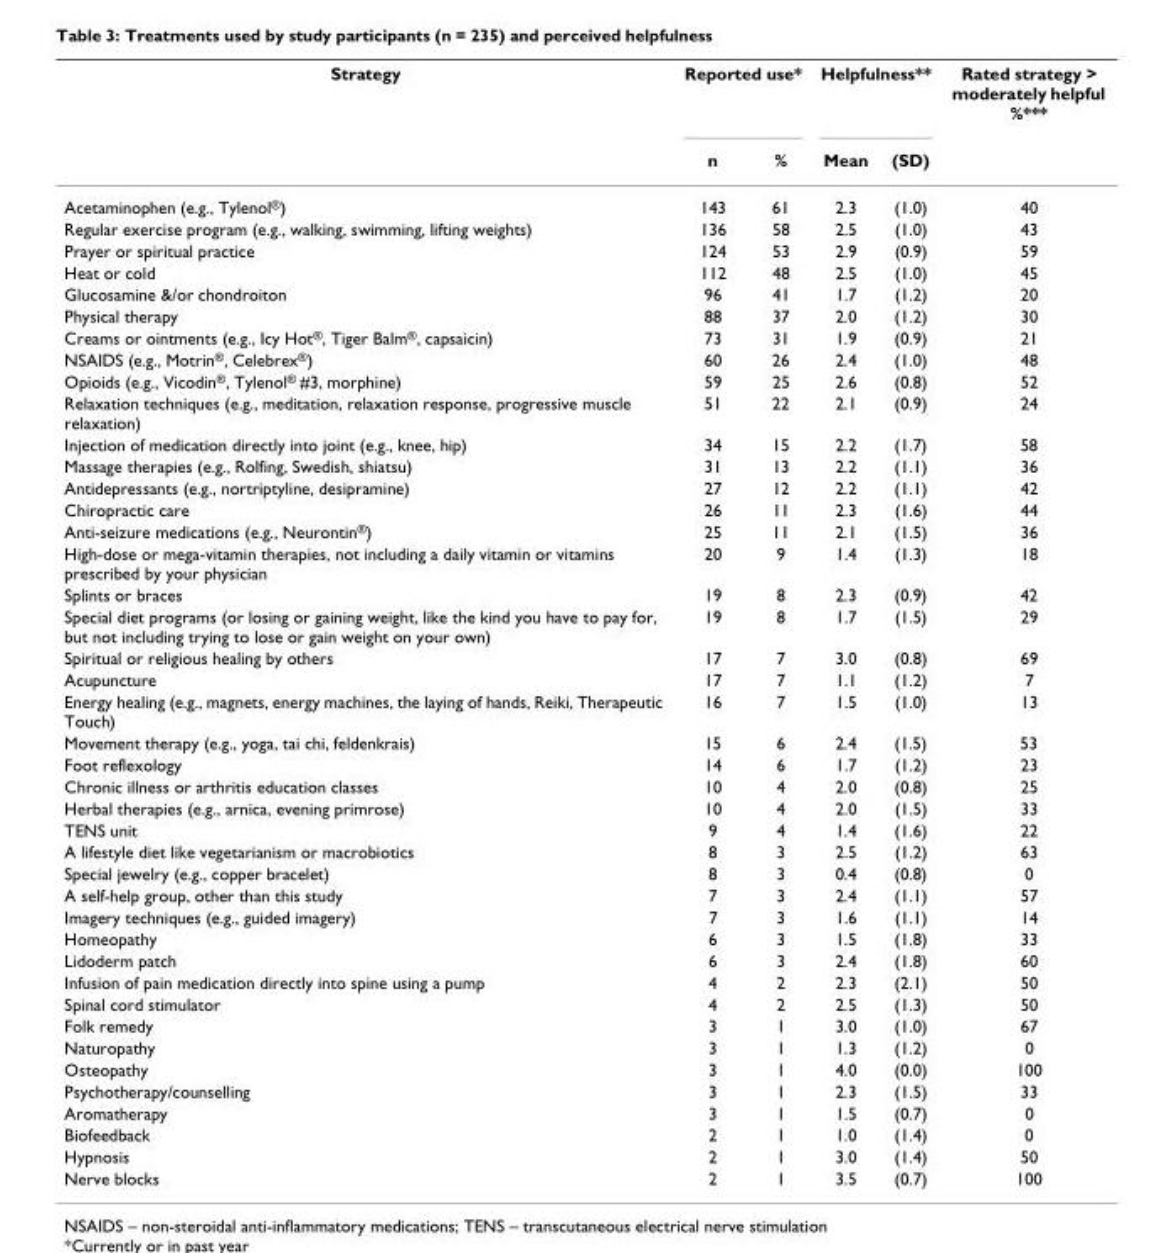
<table><thead><tr><td rowspan="2">Strategy</td><td colspan="2">Reported use*</td><td colspan="2">Helpfulness**</td><td rowspan="2">Rated strategy &gt; moderately helpful %***</td></tr><tr><td>n</td><td>%</td><td>Mean</td><td>(SD)</td></tr></thead><tbody><tr><td>Acetaminophen (e.g., Tylenol<sup>®</sup>)</td><td>143</td><td>61</td><td>2.3</td><td>(1.0)</td><td>40</td></tr><tr><td>Regular exercise program (e.g., walking, swimming, lifting weights)</td><td>136</td><td>58</td><td>2.5</td><td>(1.0)</td><td>43</td></tr><tr><td>Prayer or spiritual practice</td><td>124</td><td>53</td><td>2.9</td><td>(0.9)</td><td>59</td></tr><tr><td>Heat or cold</td><td>112</td><td>48</td><td>2.5</td><td>(1.0)</td><td>45</td></tr><tr><td>Glucosamine &amp;/or chondroiton</td><td>96</td><td>41</td><td>1.7</td><td>(1.2)</td><td>20</td></tr><tr><td>Physical therapy</td><td>88</td><td>37</td><td>2.0</td><td>(1.2)</td><td>30</td></tr><tr><td>Creams or ointments (e.g., Icy Hot<sup>®</sup>, Tiger Balm<sup>®</sup>, capsaicin)</td><td>73</td><td>31</td><td>1.9</td><td>(0.9)</td><td>21</td></tr><tr><td>NSAIDS (e.g., Motrin<sup>®</sup>, Celebrex<sup>®</sup>)</td><td>60</td><td>26</td><td>2.4</td><td>(1.0)</td><td>48</td></tr><tr><td>Opioids (e.g., Vicodin<sup>®</sup>, Tylenol<sup>®</sup> #3, morphine)</td><td>59</td><td>25</td><td>2.6</td><td>(0.8)</td><td>52</td></tr><tr><td>Relaxation techniques (e.g., meditation, relaxation response, progressive muscle relaxation)</td><td>51</td><td>22</td><td>2.1</td><td>(0.9)</td><td>24</td></tr><tr><td>Injection of medication directly into joint (e.g., knee, hip)</td><td>34</td><td>15</td><td>2.2</td><td>(1.7)</td><td>58</td></tr><tr><td>Massage therapies (e.g., Rolfing, Swedish, shiatsu)</td><td>31</td><td>13</td><td>2.2</td><td>(1.1)</td><td>36</td></tr><tr><td>Antidepressants (e.g., nortriptyline, desipramine)</td><td>27</td><td>12</td><td>2.2</td><td>(1.1)</td><td>42</td></tr><tr><td>Chiropractic care</td><td>26</td><td>11</td><td>2.3</td><td>(1.6)</td><td>44</td></tr><tr><td>Anti-seizure medications (e.g., Neurontin<sup>®</sup>)</td><td>25</td><td>11</td><td>2.1</td><td>(1.5)</td><td>36</td></tr><tr><td>High-dose or mega-vitamin therapies, not including a daily vitamin or vitamins prescribed by your physician</td><td>20</td><td>9</td><td>1.4</td><td>(1.3)</td><td>18</td></tr><tr><td>Splints or braces</td><td>19</td><td>8</td><td>2.3</td><td>(0.9)</td><td>42</td></tr><tr><td>Special diet programs (or losing or gaining weight, like the kind you have to pay for, but not including trying to lose or gain weight on your own)</td><td>19</td><td>8</td><td>1.7</td><td>(1.5)</td><td>29</td></tr><tr><td>Spiritual or religious healing by others</td><td>17</td><td>7</td><td>3.0</td><td>(0.8)</td><td>69</td></tr><tr><td>Acupuncture</td><td>17</td><td>7</td><td>1.1</td><td>(1.2)</td><td>7</td></tr><tr><td>Energy healing (e.g., magnets, energy machines, the laying of hands, Reiki, Therapeutic Touch)</td><td>16</td><td>7</td><td>1.5</td><td>(1.0)</td><td>13</td></tr><tr><td>Movement therapy (e.g., yoga, tai chi, feldenkrais)</td><td>15</td><td>6</td><td>2.4</td><td>(1.5)</td><td>53</td></tr><tr><td>Foot reflexology</td><td>14</td><td>6</td><td>1.7</td><td>(1.2)</td><td>23</td></tr><tr><td>Chronic illness or arthritis education classes</td><td>10</td><td>4</td><td>2.0</td><td>(0.8)</td><td>25</td></tr><tr><td>Herbal therapies (e.g., arnica, evening primrose)</td><td>10</td><td>4</td><td>2.0</td><td>(1.5)</td><td>33</td></tr><tr><td>TENS unit</td><td>9</td><td>4</td><td>1.4</td><td>(1.6)</td><td>22</td></tr><tr><td>A lifestyle diet like vegetarianism or macrobiotics</td><td>8</td><td>3</td><td>2.5</td><td>(1.2)</td><td>63</td></tr><tr><td>Special jewelry (e.g., copper bracelet)</td><td>8</td><td>3</td><td>0.4</td><td>(0.8)</td><td>0</td></tr><tr><td>A self-help group, other than this study</td><td>7</td><td>3</td><td>2.4</td><td>(1.1)</td><td>57</td></tr><tr><td>Imagery techniques (e.g., guided imagery)</td><td>7</td><td>3</td><td>1.6</td><td>(1.1)</td><td>14</td></tr><tr><td>Homeopathy</td><td>6</td><td>3</td><td>1.5</td><td>(1.8)</td><td>33</td></tr><tr><td>Lidoderm patch</td><td>6</td><td>3</td><td>2.4</td><td>(1.8)</td><td>60</td></tr><tr><td>Infusion of pain medication directly into spine using a pump</td><td>4</td><td>2</td><td>2.3</td><td>(2.1)</td><td>50</td></tr><tr><td>Spinal cord stimulator</td><td>4</td><td>2</td><td>2.5</td><td>(1.3)</td><td>50</td></tr><tr><td>Folk remedy</td><td>3</td><td>1</td><td>3.0</td><td>(1.0)</td><td>67</td></tr><tr><td>Naturopathy</td><td>3</td><td>1</td><td>1.3</td><td>(1.2)</td><td>0</td></tr><tr><td>Osteopathy</td><td>3</td><td>1</td><td>4.0</td><td>(0.0)</td><td>100</td></tr><tr><td>Psychotherapy/counselling</td><td>3</td><td>1</td><td>2.3</td><td>(1.5)</td><td>33</td></tr><tr><td>Aromatherapy</td><td>3</td><td>1</td><td>1.5</td><td>(0.7)</td><td>0</td></tr><tr><td>Biofeedback</td><td>2</td><td>1</td><td>1.0</td><td>(1.4)</td><td>0</td></tr><tr><td>Hypnosis</td><td>2</td><td>1</td><td>3.0</td><td>(1.4)</td><td>50</td></tr><tr><td>Nerve blocks</td><td>2</td><td>1</td><td>3.5</td><td>(0.7)</td><td>100</td></tr></tbody></table>